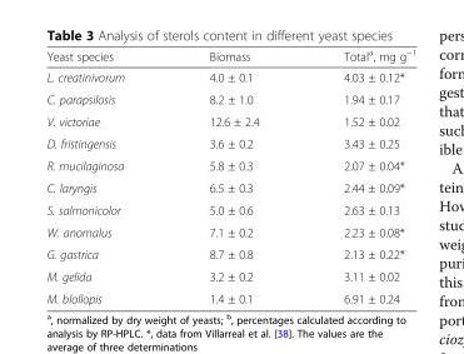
<table><thead><tr><td>Yeast species</td><td>Biomass</td><td>Total<sup>a</sup>, mg g<sup>−1</sup></td></tr></thead><tbody><tr><td>L. creatinivorum</td><td>4.0 ± 0.1</td><td>4.03 ± 0.12*</td></tr><tr><td>C. parapsilosis</td><td>8.2 ± 1.0</td><td>1.94 ± 0.17</td></tr><tr><td>V. victoriae</td><td>12.6 ± 2.4</td><td>1.52 ± 0.02</td></tr><tr><td>D. fristingensis</td><td>3.6 ± 0.2</td><td>3.43 ± 0.25</td></tr><tr><td>R. mucilaginosa</td><td>5.8 ± 0.3</td><td>2.07 ± 0.04*</td></tr><tr><td>C. laryngis</td><td>6.5 ± 0.3</td><td>2.44 ± 0.09*</td></tr><tr><td>S. salmonicolor</td><td>5.0 ± 0.6</td><td>2.63 ± 0.13</td></tr><tr><td>W. anomalus</td><td>7.1 ± 0.2</td><td>2.23 ± 0.08*</td></tr><tr><td>G. gastrica</td><td>8.7 ± 0.8</td><td>2.13 ± 0.22*</td></tr><tr><td>M. gelida</td><td>3.2 ± 0.2</td><td>3.11 ± 0.02</td></tr><tr><td>M. blollopis</td><td>1.4 ± 0.1</td><td>6.91 ± 0.24</td></tr></tbody></table>